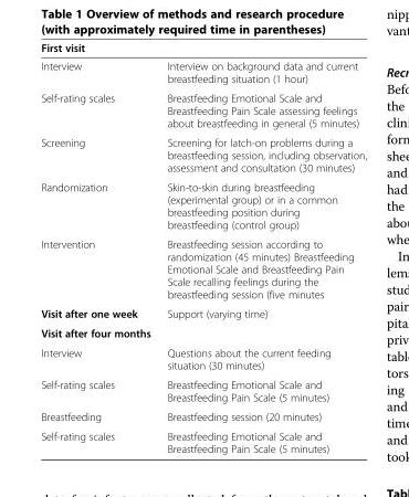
<table><thead><tr><td>First visit</td><td></td></tr></thead><tbody><tr><td>Interview</td><td>Interview on background data and current breastfeeding situation (1 hour)</td></tr><tr><td>Self-rating scales</td><td>Breastfeeding Emotional Scale and Breastfeeding Pain Scale assessing feelings about breastfeeding in general (5 minutes)</td></tr><tr><td>Screening</td><td>Screening for latch-on problems during a breastfeeding session, including observation, assessment and consultation (30 minutes)</td></tr><tr><td>Randomization</td><td>Skin-to-skin during breastfeeding (experimental group) or in a common breastfeeding position during breastfeeding (control group)</td></tr><tr><td>Intervention</td><td>Breastfeeding session according to randomization (45 minutes) Breastfeeding Emotional Scale and Breastfeeding Pain Scale recalling feelings during the breastfeeding session (five minutes</td></tr><tr><td>Visit after one week</td><td>Support (varying time)</td></tr><tr><td colspan="2">Visit after four months</td></tr><tr><td>Interview</td><td>Questions about the current feeding situation (30 minutes)</td></tr><tr><td>Self-rating scales</td><td>Breastfeeding Emotional Scale and Breastfeeding Pain Scale (5 minutes)</td></tr><tr><td>Breastfeeding</td><td>Breastfeeding session (20 minutes)</td></tr><tr><td>Self-rating scales</td><td>Breastfeeding Emotional Scale and Breastfeeding Pain Scale (5 minutes)</td></tr></tbody></table>